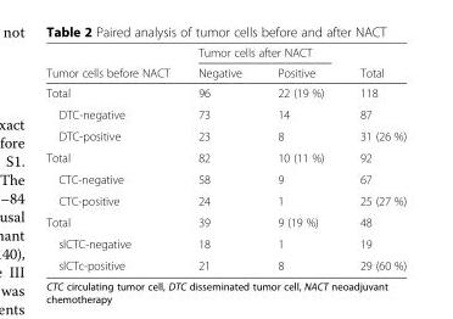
<table><thead><tr><td rowspan="2">Tumor cells before NACT</td><td colspan="2">Tumor cells after NACT</td><td rowspan="2">Total</td></tr><tr><td>Negative</td><td>Positive</td></tr></thead><tbody><tr><td>Total</td><td>96</td><td>22 (19 %)</td><td>118</td></tr><tr><td>DTC-negative</td><td>73</td><td>14</td><td>87</td></tr><tr><td>DTC-positive</td><td>23</td><td>8</td><td>31 (26 %)</td></tr><tr><td>Total</td><td>82</td><td>10 (11 %)</td><td>92</td></tr><tr><td>CTC-negative</td><td>58</td><td>9</td><td>67</td></tr><tr><td>CTC-positive</td><td>24</td><td>1</td><td>25 (27 %)</td></tr><tr><td>Total</td><td>39</td><td>9 (19 %)</td><td>48</td></tr><tr><td>slCTC-negative</td><td>18</td><td>1</td><td>19</td></tr><tr><td>slCTc-positive</td><td>21</td><td>8</td><td>29 (60 %)</td></tr></tbody></table>